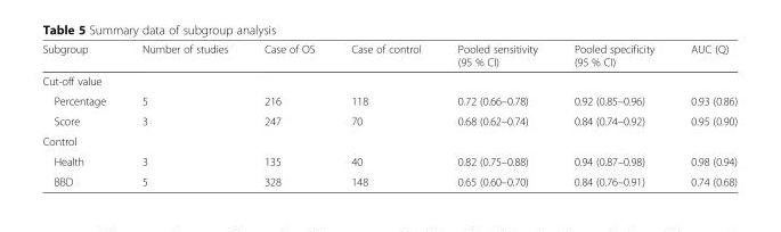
<table><thead><tr><td>Subgroup</td><td>Number of studies</td><td>Case of OS</td><td>Case of control</td><td>Pooled sensitivity (95 % CI)</td><td>Pooled specificity (95 % CI)</td><td>AUC (Q)</td></tr></thead><tbody><tr><td colspan="7">Cut-off value</td></tr><tr><td>Percentage</td><td>5</td><td>216</td><td>118</td><td>0.72 (0.66–0.78)</td><td>0.92 (0.85–0.96)</td><td>0.93 (0.86)</td></tr><tr><td>Score</td><td>3</td><td>247</td><td>70</td><td>0.68 (0.62–0.74)</td><td>0.84 (0.74–0.92)</td><td>0.95 (0.90)</td></tr><tr><td colspan="7">Control</td></tr><tr><td>Health</td><td>3</td><td>135</td><td>40</td><td>0.82 (0.75–0.88)</td><td>0.94 (0.87–0.98)</td><td>0.98 (0.94)</td></tr><tr><td>BBD</td><td>5</td><td>328</td><td>148</td><td>0.65 (0.60–0.70)</td><td>0.84 (0.76–0.91)</td><td>0.74 (0.68)</td></tr></tbody></table>